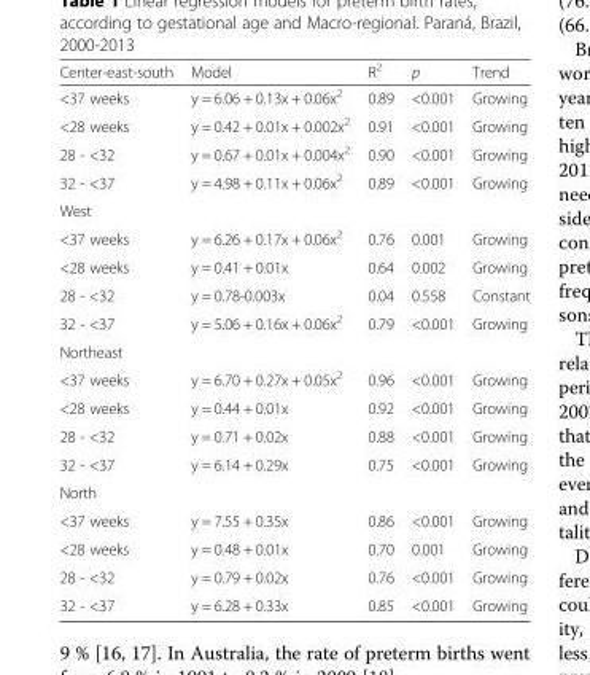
<table><thead><tr><td>Center-east-south</td><td>Model</td><td>R<sup>2</sup></td><td>p</td><td>Trend</td></tr></thead><tbody><tr><td>&lt;37 weeks</td><td>y = 6.06 + 0.13x + 0.06x<sup>2</sup></td><td>0.89</td><td>&lt;0.001</td><td>Growing</td></tr><tr><td>&lt;28 weeks</td><td>y = 0.42 + 0.01x + 0.002x<sup>2</sup></td><td>0.91</td><td>&lt;0.001</td><td>Growing</td></tr><tr><td>28 - &lt;32</td><td>y = 0.67 + 0.01x + 0.004x<sup>2</sup></td><td>0.90</td><td>&lt;0.001</td><td>Growing</td></tr><tr><td>32 - &lt;37</td><td>y = 4.98 + 0.11x + 0.06x<sup>2</sup></td><td>0.89</td><td>&lt;0.001</td><td>Growing</td></tr><tr><td colspan="5">West</td></tr><tr><td>&lt;37 weeks</td><td>y = 6.26 + 0.17x + 0.06x<sup>2</sup></td><td>0.76</td><td>0.001</td><td>Growing</td></tr><tr><td>&lt;28 weeks</td><td>y = 0.41 + 0.01x</td><td>0.64</td><td>0.002</td><td>Growing</td></tr><tr><td>28 - &lt;32</td><td>y = 0.78-0.003x</td><td>0.04</td><td>0.558</td><td>Constant</td></tr><tr><td>32 - &lt;37</td><td>y = 5.06 + 0.16x + 0.06x<sup>2</sup></td><td>0.79</td><td>&lt;0.001</td><td>Growing</td></tr><tr><td colspan="5">Northeast</td></tr><tr><td>&lt;37 weeks</td><td>y = 6.70 + 0.27x + 0.05x<sup>2</sup></td><td>0.96</td><td>&lt;0.001</td><td>Growing</td></tr><tr><td>&lt;28 weeks</td><td>y = 0.44 + 0.01x</td><td>0.92</td><td>&lt;0.001</td><td>Growing</td></tr><tr><td>28 - &lt;32</td><td>y = 0.71 + 0.02x</td><td>0.88</td><td>&lt;0.001</td><td>Growing</td></tr><tr><td>32 - &lt;37</td><td>y = 6.14 + 0.29x</td><td>0.75</td><td>&lt;0.001</td><td>Growing</td></tr><tr><td colspan="5">North</td></tr><tr><td>&lt;37 weeks</td><td>y = 7.55 + 0.35x</td><td>0.86</td><td>&lt;0.001</td><td>Growing</td></tr><tr><td>&lt;28 weeks</td><td>y = 0.48 + 0.01x</td><td>0.70</td><td>0.001</td><td>Growing</td></tr><tr><td>28 - &lt;32</td><td>y = 0.79 + 0.02x</td><td>0.76</td><td>&lt;0.001</td><td>Growing</td></tr><tr><td>32 - &lt;37</td><td>y = 6.28 + 0.33x</td><td>0.85</td><td>&lt;0.001</td><td>Growing</td></tr></tbody></table>